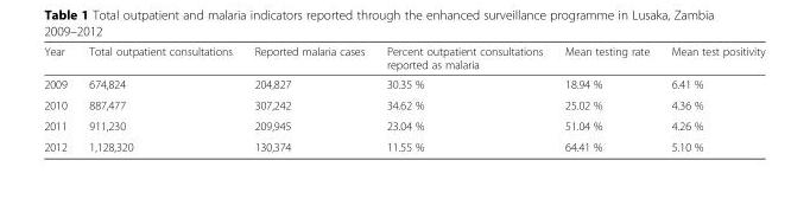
<table><thead><tr><td>Year</td><td>Total outpatient consultations</td><td>Reported malaria cases</td><td>Percent outpatient consultations reported as malaria</td><td>Mean testing rate</td><td>Mean test positivity</td></tr></thead><tbody><tr><td>2009</td><td>674,824</td><td>204,827</td><td>30.35 %</td><td>18.94 %</td><td>6.41 %</td></tr><tr><td>2010</td><td>887,477</td><td>307,242</td><td>34.62 %</td><td>25.02 %</td><td>4.36 %</td></tr><tr><td>2011</td><td>911,230</td><td>209,945</td><td>23.04 %</td><td>51.04 %</td><td>4.26 %</td></tr><tr><td>2012</td><td>1,128,320</td><td>130,374</td><td>11.55 %</td><td>64.41 %</td><td>5.10 %</td></tr></tbody></table>